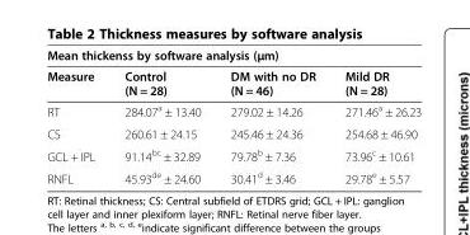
<table><thead><tr><td colspan="4">Mean thickenss by software analysis (μm)</td></tr><tr><td>Measure</td><td>Control (N = 28)</td><td>DM with no DR (N = 46)</td><td>Mild DR (N = 28)</td></tr></thead><tbody><tr><td>RT</td><td>284.07<sup>a</sup> ± 13.40</td><td>279.02 ± 14.26</td><td>271.46<sup>a</sup> ± 26.23</td></tr><tr><td>CS</td><td>260.61 ± 24.15</td><td>245.46 ± 24.36</td><td>254.68 ± 46.90</td></tr><tr><td>GCL + IPL</td><td>91.14<sup>bc</sup> ± 32.89</td><td>79.78<sup>b</sup> ± 7.36</td><td>73.96<sup>c</sup> ± 10.61</td></tr><tr><td>RNFL</td><td>45.93<sup>de</sup> ± 24.60</td><td>30.41<sup>d</sup> ± 3.46</td><td>29.78<sup>e</sup> ± 5.57</td></tr></tbody></table>